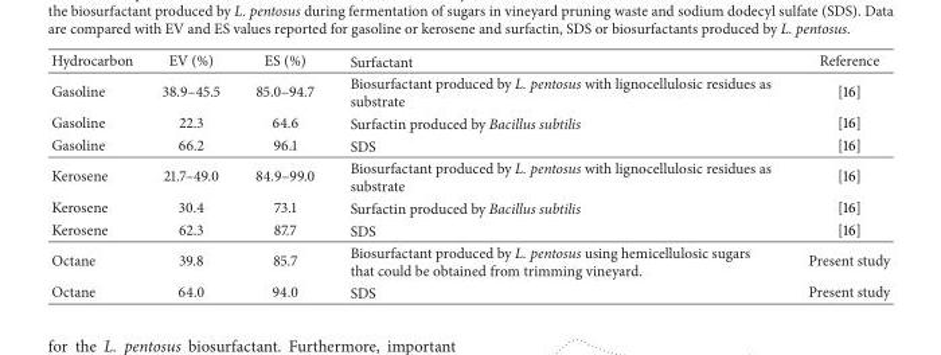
<table><thead><tr><td>Hydrocarbon</td><td>EV (%)</td><td>ES (%)</td><td>Surfactant</td><td>Reference</td></tr></thead><tbody><tr><td>Gasoline</td><td>38.9–45.5</td><td>85.0–94.7</td><td>Biosurfactant produced by L. pentosus with lignocellulosic residues as substrate</td><td>[16]</td></tr><tr><td>Gasoline</td><td>22.3</td><td>64.6</td><td>Surfactin produced by Bacillus subtilis</td><td>[16]</td></tr><tr><td>Gasoline</td><td>66.2</td><td>96.1</td><td>SDS</td><td>[16]</td></tr><tr><td>Kerosene</td><td>21.7–49.0</td><td>84.9–99.0</td><td>Biosurfactant produced by L. pentosus with lignocellulosic residues as substrate</td><td>[16]</td></tr><tr><td>Kerosene</td><td>30.4</td><td>73.1</td><td>Surfactin produced by Bacillus subtilis</td><td>[16]</td></tr><tr><td>Kerosene</td><td>62.3</td><td>87.7</td><td>SDS</td><td>[16]</td></tr><tr><td>Octane</td><td>39.8</td><td>85.7</td><td>Biosurfactant produced by L. pentosus using hemicellulosic sugars that could be obtained from trimming vineyard.</td><td>Present study</td></tr><tr><td>Octane</td><td>64.0</td><td>94.0</td><td>SDS</td><td>Present study</td></tr></tbody></table>